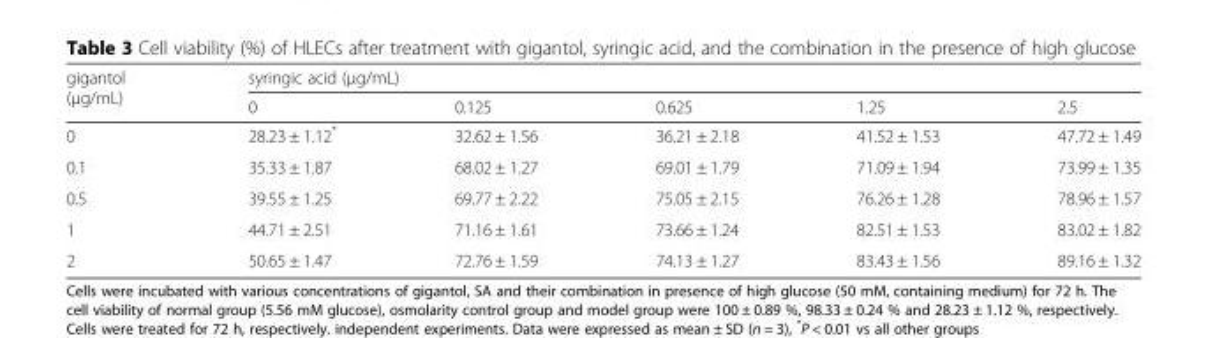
<table><thead><tr><td rowspan="2">gigantol (μg/mL)</td><td colspan="5">syringic acid (μg/mL)</td></tr><tr><td>0</td><td>0.125</td><td>0.625</td><td>1.25</td><td>2.5</td></tr></thead><tbody><tr><td>0</td><td>28.23 ± 1.12*</td><td>32.62 ± 1.56</td><td>36.21 ± 2.18</td><td>41.52 ± 1.53</td><td>47.72 ± 1.49</td></tr><tr><td>0.1</td><td>35.33 ± 1.87</td><td>68.02 ± 1.27</td><td>69.01 ± 1.79</td><td>71.09 ± 1.94</td><td>73.99 ± 1.35</td></tr><tr><td>0.5</td><td>39.55 ± 1.25</td><td>69.77 ± 2.22</td><td>75.05 ± 2.15</td><td>76.26 ± 1.28</td><td>78.96 ± 1.57</td></tr><tr><td>1</td><td>44.71 ± 2.51</td><td>71.16 ± 1.61</td><td>73.66 ± 1.24</td><td>82.51 ± 1.53</td><td>83.02 ± 1.82</td></tr><tr><td>2</td><td>50.65 ± 1.47</td><td>72.76 ± 1.59</td><td>74.13 ± 1.27</td><td>83.43 ± 1.56</td><td>89.16 ± 1.32</td></tr></tbody></table>